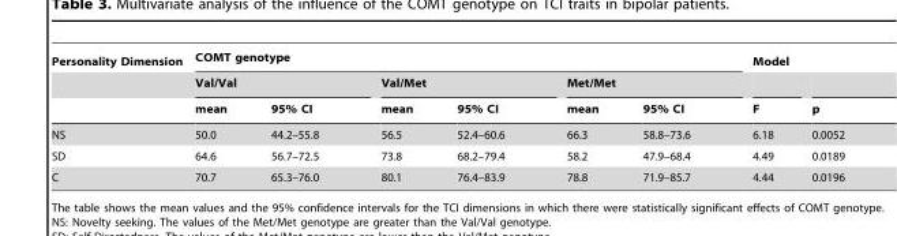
<table><thead><tr><td rowspan="3">Personality Dimension</td><td colspan="6">COMT genotype</td><td colspan="2">Model</td></tr><tr><td colspan="2">Val/Val</td><td colspan="2">Val/Met</td><td colspan="2">Met/Met</td><td rowspan="2">F</td><td rowspan="2">p</td></tr><tr><td>mean</td><td>95% CI</td><td>mean</td><td>95% CI</td><td>mean</td><td>95% CI</td></tr></thead><tbody><tr><td>NS</td><td>50.0</td><td>44.2–55.8</td><td>56.5</td><td>52.4–60.6</td><td>66.3</td><td>58.8–73.6</td><td>6.18</td><td>0.0052</td></tr><tr><td>SD</td><td>64.6</td><td>56.7–72.5</td><td>73.8</td><td>68.2–79.4</td><td>58.2</td><td>47.9–68.4</td><td>4.49</td><td>0.0189</td></tr><tr><td>C</td><td>70.7</td><td>65.3–76.0</td><td>80.1</td><td>76.4–83.9</td><td>78.8</td><td>71.9–85.7</td><td>4.44</td><td>0.0196</td></tr></tbody></table>